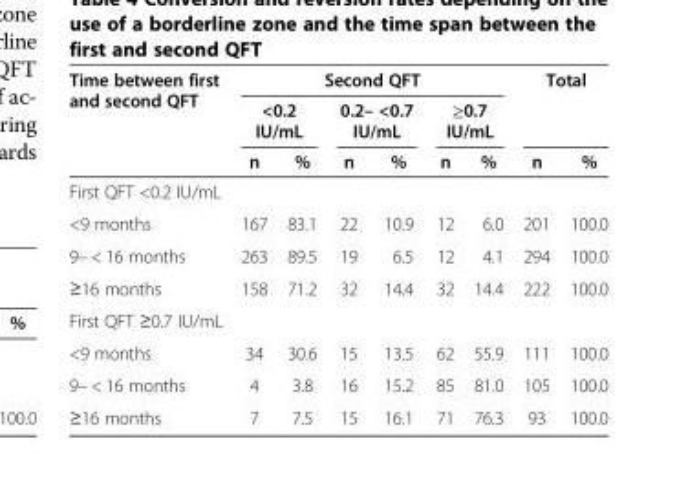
<table><thead><tr><td rowspan="3">Time between first and second QFT</td><td colspan="6">Second QFT</td><td rowspan="2" colspan="2">Total</td></tr><tr><td colspan="2">&lt;0.2 IU/mL</td><td colspan="2">0.2– &lt;0.7 IU/mL</td><td colspan="2">≥0.7 IU/mL</td></tr><tr><td>n</td><td>%</td><td>n</td><td>%</td><td>n</td><td>%</td><td>n</td><td>%</td></tr></thead><tbody><tr><td colspan="9">First QFT &lt;0.2 IU/mL</td></tr><tr><td>&lt;9 months</td><td>167</td><td>83.1</td><td>22</td><td>10.9</td><td>12</td><td>6.0</td><td>201</td><td>100.0</td></tr><tr><td>9– &lt; 16 months</td><td>263</td><td>89.5</td><td>19</td><td>6.5</td><td>12</td><td>4.1</td><td>294</td><td>100.0</td></tr><tr><td>≥16 months</td><td>158</td><td>71.2</td><td>32</td><td>14.4</td><td>32</td><td>14.4</td><td>222</td><td>100.0</td></tr><tr><td colspan="9">First QFT ≥0.7 IU/mL</td></tr><tr><td>&lt;9 months</td><td>34</td><td>30.6</td><td>15</td><td>13.5</td><td>62</td><td>55.9</td><td>111</td><td>100.0</td></tr><tr><td>9– &lt; 16 months</td><td>4</td><td>3.8</td><td>16</td><td>15.2</td><td>85</td><td>81.0</td><td>105</td><td>100.0</td></tr><tr><td>≥16 months</td><td>7</td><td>7.5</td><td>15</td><td>16.1</td><td>71</td><td>76.3</td><td>93</td><td>100.0</td></tr></tbody></table>